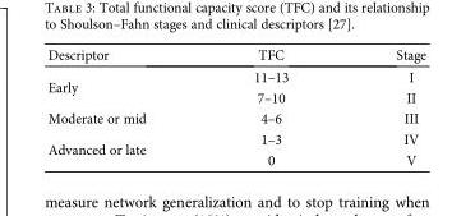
<table><thead><tr><td>Descriptor</td><td>TFC</td><td>Stage</td></tr></thead><tbody><tr><td rowspan="2">Early</td><td>11–13</td><td>I</td></tr><tr><td>7–10</td><td>II</td></tr><tr><td>Moderate or mid</td><td>4–6</td><td>III</td></tr><tr><td rowspan="2">Advanced or late</td><td>1–3</td><td>IV</td></tr><tr><td>0</td><td>V</td></tr></tbody></table>